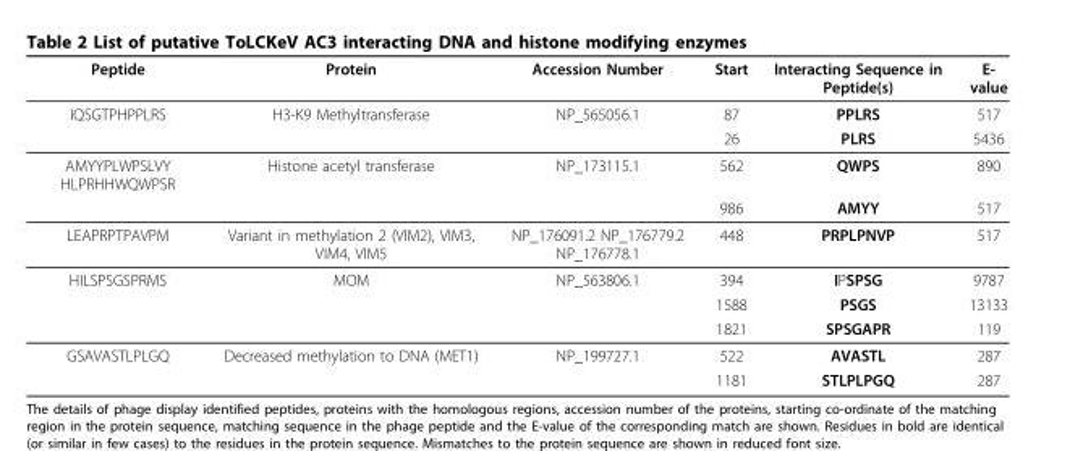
<table><thead><tr><td>Peptide</td><td>Protein</td><td>Accession Number</td><td>Start</td><td>Interacting Sequence in Peptide(s)</td><td>E- value</td></tr></thead><tbody><tr><td rowspan="2">IQSGTPHPPLRS</td><td>H3-K9 Methyltransferase</td><td>NP_565056.1</td><td>87</td><td>PPLRS</td><td>517</td></tr><tr><td></td><td></td><td>26</td><td>PLRS</td><td>5436</td></tr><tr><td rowspan="2">AMYYPLWPSLVY HLPRHHWQWPSR</td><td>Histone acetyl transferase</td><td>NP_173115.1</td><td>562</td><td>QWPS</td><td>890</td></tr><tr><td></td><td></td><td>986</td><td>AMYY</td><td>517</td></tr><tr><td>LEAPRPTPAVPM</td><td>Variant in methylation 2 (VIM2), VIM3, VIM4, VIM5</td><td>NP_176091.2 NP_176779.2 NP_176778.1</td><td>448</td><td>PRPLPNVP</td><td>517</td></tr><tr><td rowspan="3">HILSPSGSPRMS</td><td>MOM</td><td>NP_563806.1</td><td>394</td><td>IPSPSG</td><td>9787</td></tr><tr><td></td><td></td><td>1588</td><td>PSGS</td><td>13133</td></tr><tr><td></td><td></td><td>1821</td><td>SPSGAPR</td><td>119</td></tr><tr><td rowspan="2">GSAVASTLPLGQ</td><td>Decreased methylation to DNA (MET1)</td><td>NP_199727.1</td><td>522</td><td>AVASTL</td><td>287</td></tr><tr><td></td><td></td><td>1181</td><td>STLPLPGQ</td><td>287</td></tr></tbody></table>